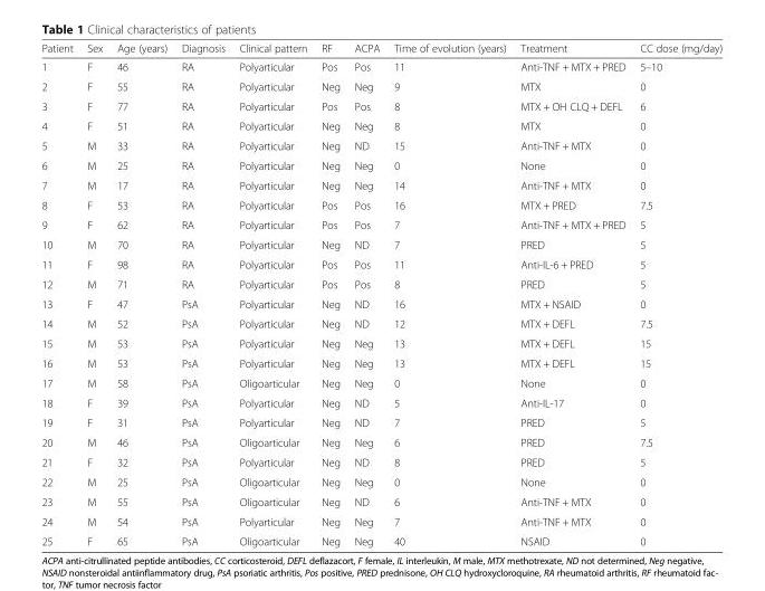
<table><thead><tr><td>Patient</td><td>Sex</td><td>Age (years)</td><td>Diagnosis</td><td>Clinical pattern</td><td>RF</td><td>ACPA</td><td>Time of evolution (years)</td><td>Treatment</td><td>CC dose (mg/day)</td></tr></thead><tbody><tr><td>1</td><td>F</td><td>46</td><td>RA</td><td>Polyarticular</td><td>Pos</td><td>Pos</td><td>11</td><td>Anti-TNF + MTX + PRED</td><td>5–10</td></tr><tr><td>2</td><td>F</td><td>55</td><td>RA</td><td>Polyarticular</td><td>Neg</td><td>Neg</td><td>9</td><td>MTX</td><td>0</td></tr><tr><td>3</td><td>F</td><td>77</td><td>RA</td><td>Polyarticular</td><td>Pos</td><td>Pos</td><td>8</td><td>MTX + OH CLQ + DEFL</td><td>6</td></tr><tr><td>4</td><td>F</td><td>51</td><td>RA</td><td>Polyarticular</td><td>Neg</td><td>Neg</td><td>8</td><td>MTX</td><td>0</td></tr><tr><td>5</td><td>M</td><td>33</td><td>RA</td><td>Polyarticular</td><td>Neg</td><td>ND</td><td>15</td><td>Anti-TNF + MTX</td><td>0</td></tr><tr><td>6</td><td>M</td><td>25</td><td>RA</td><td>Polyarticular</td><td>Neg</td><td>Neg</td><td>0</td><td>None</td><td>0</td></tr><tr><td>7</td><td>M</td><td>17</td><td>RA</td><td>Polyarticular</td><td>Neg</td><td>Neg</td><td>14</td><td>Anti-TNF + MTX</td><td>0</td></tr><tr><td>8</td><td>F</td><td>53</td><td>RA</td><td>Polyarticular</td><td>Pos</td><td>Pos</td><td>16</td><td>MTX + PRED</td><td>7.5</td></tr><tr><td>9</td><td>F</td><td>62</td><td>RA</td><td>Polyarticular</td><td>Pos</td><td>Pos</td><td>7</td><td>Anti-TNF + MTX + PRED</td><td>5</td></tr><tr><td>10</td><td>M</td><td>70</td><td>RA</td><td>Polyarticular</td><td>Neg</td><td>ND</td><td>7</td><td>PRED</td><td>5</td></tr><tr><td>11</td><td>F</td><td>98</td><td>RA</td><td>Polyarticular</td><td>Pos</td><td>Pos</td><td>11</td><td>Anti-IL-6 + PRED</td><td>5</td></tr><tr><td>12</td><td>M</td><td>71</td><td>RA</td><td>Polyarticular</td><td>Pos</td><td>Pos</td><td>8</td><td>PRED</td><td>5</td></tr><tr><td>13</td><td>F</td><td>47</td><td>PsA</td><td>Polyarticular</td><td>Neg</td><td>ND</td><td>16</td><td>MTX + NSAID</td><td>0</td></tr><tr><td>14</td><td>M</td><td>52</td><td>PsA</td><td>Polyarticular</td><td>Neg</td><td>ND</td><td>12</td><td>MTX + DEFL</td><td>7.5</td></tr><tr><td>15</td><td>M</td><td>53</td><td>PsA</td><td>Polyarticular</td><td>Neg</td><td>Neg</td><td>13</td><td>MTX + DEFL</td><td>15</td></tr><tr><td>16</td><td>M</td><td>53</td><td>PsA</td><td>Polyarticular</td><td>Neg</td><td>Neg</td><td>13</td><td>MTX + DEFL</td><td>15</td></tr><tr><td>17</td><td>M</td><td>58</td><td>PsA</td><td>Oligoarticular</td><td>Neg</td><td>Neg</td><td>0</td><td>None</td><td>0</td></tr><tr><td>18</td><td>F</td><td>39</td><td>PsA</td><td>Polyarticular</td><td>Neg</td><td>ND</td><td>5</td><td>Anti-IL-17</td><td>0</td></tr><tr><td>19</td><td>F</td><td>31</td><td>PsA</td><td>Polyarticular</td><td>Neg</td><td>ND</td><td>7</td><td>PRED</td><td>5</td></tr><tr><td>20</td><td>M</td><td>46</td><td>PsA</td><td>Oligoarticular</td><td>Neg</td><td>Neg</td><td>6</td><td>PRED</td><td>7.5</td></tr><tr><td>21</td><td>F</td><td>32</td><td>PsA</td><td>Polyarticular</td><td>Neg</td><td>ND</td><td>8</td><td>PRED</td><td>5</td></tr><tr><td>22</td><td>M</td><td>25</td><td>PsA</td><td>Oligoarticular</td><td>Neg</td><td>Neg</td><td>0</td><td>None</td><td>0</td></tr><tr><td>23</td><td>M</td><td>55</td><td>PsA</td><td>Oligoarticular</td><td>Neg</td><td>ND</td><td>6</td><td>Anti-TNF + MTX</td><td>0</td></tr><tr><td>24</td><td>M</td><td>54</td><td>PsA</td><td>Polyarticular</td><td>Neg</td><td>Neg</td><td>7</td><td>Anti-TNF + MTX</td><td>0</td></tr><tr><td>25</td><td>F</td><td>65</td><td>PsA</td><td>Oligoarticular</td><td>Neg</td><td>Neg</td><td>40</td><td>NSAID</td><td>0</td></tr></tbody></table>